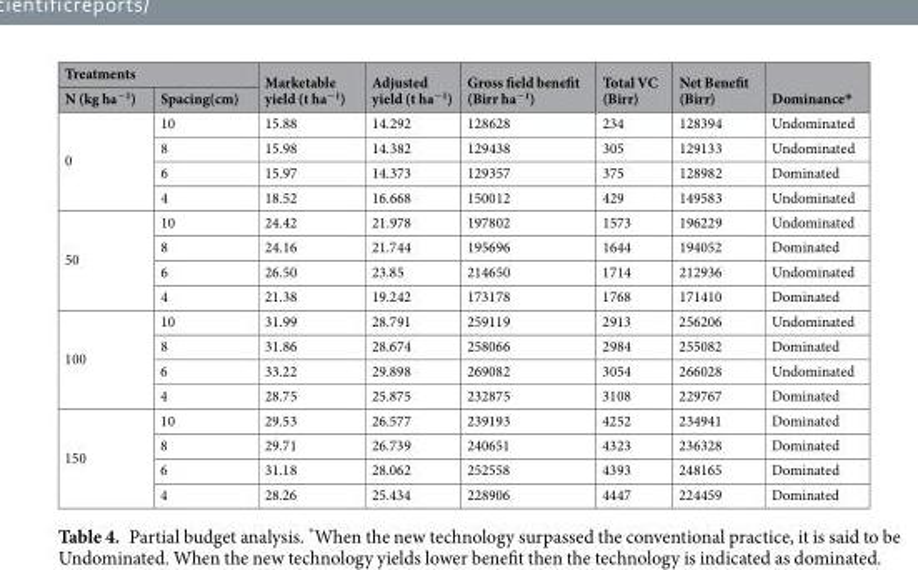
<table><thead><tr><td colspan="2">Treatments</td><td rowspan="2">Marketable yield (t ha<sup>−1</sup>)</td><td rowspan="2">Adjusted yield (t ha<sup>−1</sup>)</td><td rowspan="2">Gross field benefit (Birr ha<sup>−1</sup>)</td><td rowspan="2">Total VC (Birr)</td><td rowspan="2">Net Benefit (Birr)</td><td rowspan="2">Dominance*</td></tr><tr><td>N (kg ha<sup>−1</sup>)</td><td>Spacing(cm)</td></tr></thead><tbody><tr><td rowspan="4">0</td><td>10</td><td>15.88</td><td>14.292</td><td>128628</td><td>234</td><td>128394</td><td>Undominated</td></tr><tr><td>8</td><td>15.98</td><td>14.382</td><td>129438</td><td>305</td><td>129133</td><td>Undominated</td></tr><tr><td>6</td><td>15.97</td><td>14.373</td><td>129357</td><td>375</td><td>128982</td><td>Dominated</td></tr><tr><td>4</td><td>18.52</td><td>16.668</td><td>150012</td><td>429</td><td>149583</td><td>Undominated</td></tr><tr><td rowspan="4">50</td><td>10</td><td>24.42</td><td>21.978</td><td>197802</td><td>1573</td><td>196229</td><td>Undominated</td></tr><tr><td>8</td><td>24.16</td><td>21.744</td><td>195696</td><td>1644</td><td>194052</td><td>Dominated</td></tr><tr><td>6</td><td>26.50</td><td>23.85</td><td>214650</td><td>1714</td><td>212936</td><td>Undominated</td></tr><tr><td>4</td><td>21.38</td><td>19.242</td><td>173178</td><td>1768</td><td>171410</td><td>Dominated</td></tr><tr><td rowspan="4">100</td><td>10</td><td>31.99</td><td>28.791</td><td>259119</td><td>2913</td><td>256206</td><td>Undominated</td></tr><tr><td>8</td><td>31.86</td><td>28.674</td><td>258066</td><td>2984</td><td>255082</td><td>Dominated</td></tr><tr><td>6</td><td>33.22</td><td>29.898</td><td>269082</td><td>3054</td><td>266028</td><td>Undominated</td></tr><tr><td>4</td><td>28.75</td><td>25.875</td><td>232875</td><td>3108</td><td>229767</td><td>Dominated</td></tr><tr><td rowspan="4">150</td><td>10</td><td>29.53</td><td>26.577</td><td>239193</td><td>4252</td><td>234941</td><td>Dominated</td></tr><tr><td>8</td><td>29.71</td><td>26.739</td><td>240651</td><td>4323</td><td>236328</td><td>Dominated</td></tr><tr><td>6</td><td>31.18</td><td>28.062</td><td>252558</td><td>4393</td><td>248165</td><td>Dominated</td></tr><tr><td>4</td><td>28.26</td><td>25.434</td><td>228906</td><td>4447</td><td>224459</td><td>Dominated</td></tr></tbody></table>